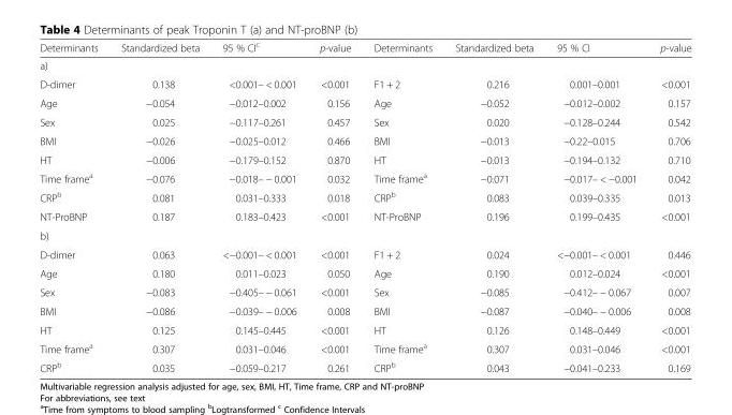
<table><thead><tr><td>Determinants</td><td>Standardized beta</td><td>95 % CI<sup>c</sup></td><td>p-value</td><td>Determinants</td><td>Standardized beta</td><td>95 % CI</td><td>p-value</td></tr></thead><tbody><tr><td colspan="8">a)</td></tr><tr><td>D-dimer</td><td>0.138</td><td>&lt;0.001– &lt; 0.001</td><td>&lt;0.001</td><td>F1 + 2</td><td>0.216</td><td>0.001–0.001</td><td>&lt;0.001</td></tr><tr><td>Age</td><td>−0.054</td><td>−0.012–0.002</td><td>0.156</td><td>Age</td><td>−0.052</td><td>−0.012–0.002</td><td>0.157</td></tr><tr><td>Sex</td><td>0.025</td><td>−0.117–0.261</td><td>0.457</td><td>Sex</td><td>0.020</td><td>−0.128–0.244</td><td>0.542</td></tr><tr><td>BMI</td><td>−0.026</td><td>−0.025–0.012</td><td>0.466</td><td>BMI</td><td>−0.013</td><td>−0.22–0.015</td><td>0.706</td></tr><tr><td>HT</td><td>−0.006</td><td>−0.179–0.152</td><td>0.870</td><td>HT</td><td>−0.013</td><td>−0.194–0.132</td><td>0.710</td></tr><tr><td>Time frame<sup>a</sup></td><td>−0.076</td><td>−0.018– − 0.001</td><td>0.032</td><td>Time frame<sup>a</sup></td><td>−0.071</td><td>−0.017– &lt; −0.001</td><td>0.042</td></tr><tr><td>CRP<sup>b</sup></td><td>0.081</td><td>0.031–0.333</td><td>0.018</td><td>CRP<sup>b</sup></td><td>0.083</td><td>0.039–0.335</td><td>0.013</td></tr><tr><td>NT-ProBNP</td><td>0.187</td><td>0.183–0.423</td><td>&lt;0.001</td><td>NT-ProBNP</td><td>0.196</td><td>0.199–0.435</td><td>&lt;0.001</td></tr><tr><td colspan="8">b)</td></tr><tr><td>D-dimer</td><td>0.063</td><td>&lt;−0.001– &lt; 0.001</td><td>&lt;0.001</td><td>F1 + 2</td><td>0.024</td><td>&lt;−0.001– &lt; 0.001</td><td>0.446</td></tr><tr><td>Age</td><td>0.180</td><td>0.011–0.023</td><td>0.050</td><td>Age</td><td>0.190</td><td>0.012–0.024</td><td>&lt;0.001</td></tr><tr><td>Sex</td><td>−0.083</td><td>−0.405– − 0.061</td><td>&lt;0.001</td><td>Sex</td><td>−0.085</td><td>−0.412– − 0.067</td><td>0.007</td></tr><tr><td>BMI</td><td>−0.086</td><td>−0.039– − 0.006</td><td>0.008</td><td>BMI</td><td>−0.087</td><td>−0.040– − 0.006</td><td>0.008</td></tr><tr><td>HT</td><td>0.125</td><td>0.145–0.445</td><td>&lt;0.001</td><td>HT</td><td>0.126</td><td>0.148–0.449</td><td>&lt;0.001</td></tr><tr><td>Time frame<sup>a</sup></td><td>0.307</td><td>0.031–0.046</td><td>&lt;0.001</td><td>Time frame<sup>a</sup></td><td>0.307</td><td>0.031–0.046</td><td>&lt;0.001</td></tr><tr><td>CRP<sup>b</sup></td><td>0.035</td><td>−0.059–0.217</td><td>0.261</td><td>CRP<sup>b</sup></td><td>0.043</td><td>−0.041–0.233</td><td>0.169</td></tr></tbody></table>